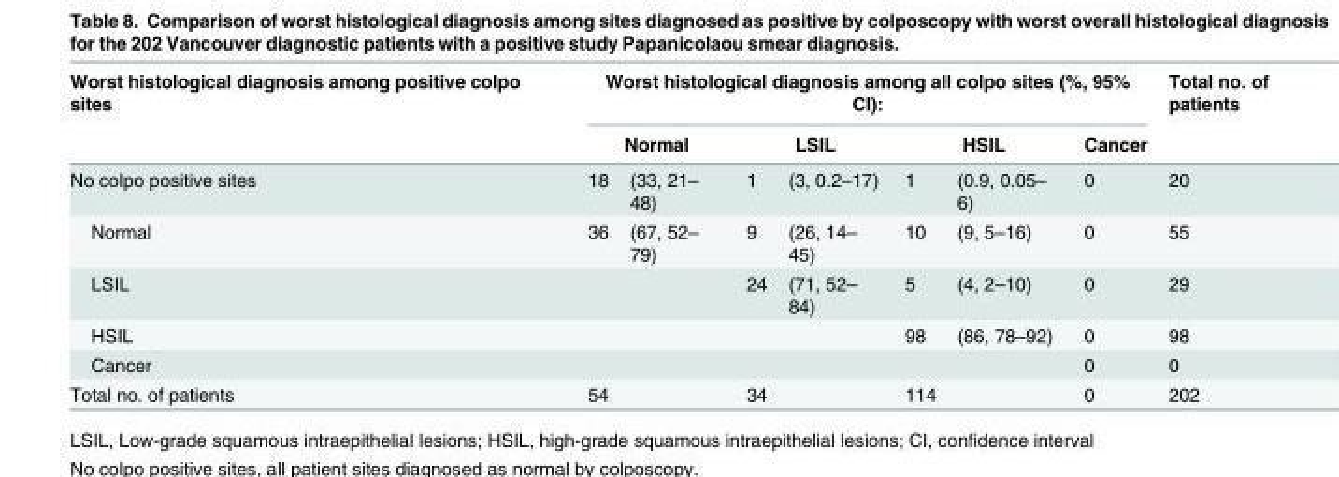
<table><thead><tr><td rowspan="3">Worst histological diagnosis among positive colpo sites No colpo positive sites</td><td colspan="7">Worst histological diagnosis among all colpo sites (%, 95% CI):</td><td rowspan="3">Total no. of patients 20</td></tr><tr><td colspan="2">Normal</td><td colspan="2">LSIL</td><td colspan="2">HSIL</td><td rowspan="2">Cancer 0</td></tr><tr><td>18</td><td>(33, 21– 48)</td><td>1</td><td>(3, 0.2–17)</td><td>1</td><td>(0.9, 0.05– 6)</td></tr></thead><tbody><tr><td>Normal</td><td>36</td><td>(67, 52– 79)</td><td>9</td><td>(26, 14– 45)</td><td>10</td><td>(9, 5–16)</td><td>0</td><td>55</td></tr><tr><td>LSIL</td><td></td><td></td><td>24</td><td>(71, 52– 84)</td><td>5</td><td>(4, 2–10)</td><td>0</td><td>29</td></tr><tr><td>HSIL</td><td></td><td></td><td></td><td></td><td>98</td><td>(86, 78–92)</td><td>0</td><td>98</td></tr><tr><td>Cancer</td><td></td><td></td><td></td><td></td><td></td><td></td><td>0</td><td>0</td></tr><tr><td>Total no. of patients</td><td>54</td><td></td><td>34</td><td></td><td>114</td><td></td><td>0</td><td>202</td></tr></tbody></table>